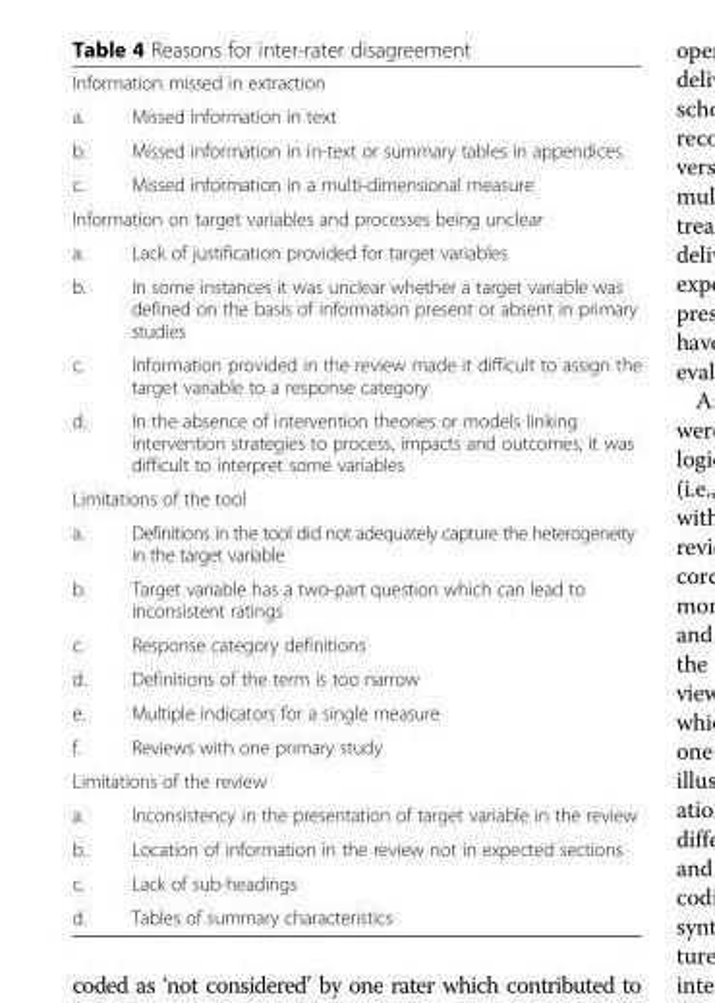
<table><tbody><tr><td colspan="2">Information missed in extraction</td></tr><tr><td>a.</td><td>Missed information in text</td></tr><tr><td>b.</td><td>Missed information in in-text or summary tables in appendices</td></tr><tr><td>c.</td><td>Missed information in a multi-dimensional measure</td></tr><tr><td colspan="2">Information on target variables and processes being unclear</td></tr><tr><td>a.</td><td>Lack of justification provided for target variables</td></tr><tr><td>b.</td><td>In some instances it was unclear whether a target variable was defined on the basis of information present or absent in primary studies</td></tr><tr><td>c.</td><td>Information provided in the review made it difficult to assign the target variable to a response category</td></tr><tr><td>d.</td><td>In the absence of intervention theories or models linking intervention strategies to process, impacts and outcomes, it was difficult to interpret some variables</td></tr><tr><td colspan="2">Limitations of the tool</td></tr><tr><td>a.</td><td>Definitions in the tool did not adequately capture the heterogeneity in the target variable</td></tr><tr><td>b.</td><td>Target variable has a two-part question which can lead to inconsistent ratings</td></tr><tr><td>c.</td><td>Response category definitions</td></tr><tr><td>d.</td><td>Definitions of the term is too narrow</td></tr><tr><td>e.</td><td>Multiple indicators for a single measure</td></tr><tr><td>f.</td><td>Reviews with one primary study</td></tr><tr><td colspan="2">Limitations of the review</td></tr><tr><td>a.</td><td>Inconsistency in the presentation of target variable in the review</td></tr><tr><td>b.</td><td>Location of information in the review not in expected sections</td></tr><tr><td>c.</td><td>Lack of sub-headings</td></tr><tr><td>d.</td><td>Tables of summary characteristics</td></tr></tbody></table>